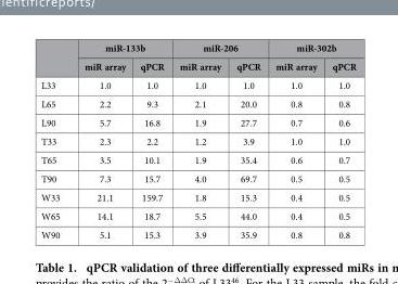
<table><thead><tr><td rowspan="2"></td><td colspan="2">miR-133b</td><td colspan="2">miR-206</td><td colspan="2">miR-302b</td></tr><tr><td>miR array</td><td>qPCR</td><td>miR array</td><td>qPCR</td><td>miR array</td><td>qPCR</td></tr></thead><tbody><tr><td>L33</td><td>1.0</td><td>1.0</td><td>1.0</td><td>1.0</td><td>1.0</td><td>1.0</td></tr><tr><td>L65</td><td>2.2</td><td>9.3</td><td>2.1</td><td>20.0</td><td>0.8</td><td>0.8</td></tr><tr><td>L90</td><td>5.7</td><td>16.8</td><td>1.9</td><td>27.7</td><td>0.7</td><td>0.6</td></tr><tr><td>T33</td><td>2.3</td><td>2.2</td><td>1.2</td><td>3.9</td><td>1.0</td><td>1.0</td></tr><tr><td>T65</td><td>3.5</td><td>10.1</td><td>1.9</td><td>35.4</td><td>0.6</td><td>0.7</td></tr><tr><td>T90</td><td>7.3</td><td>15.7</td><td>4.0</td><td>69.7</td><td>0.5</td><td>0.5</td></tr><tr><td>W33</td><td>21.1</td><td>159.7</td><td>1.8</td><td>15.3</td><td>0.4</td><td>0.5</td></tr><tr><td>W65</td><td>14.1</td><td>18.7</td><td>5.5</td><td>44.0</td><td>0.4</td><td>0.5</td></tr><tr><td>W90</td><td>5.1</td><td>15.3</td><td>3.9</td><td>35.9</td><td>0.8</td><td>0.8</td></tr></tbody></table>